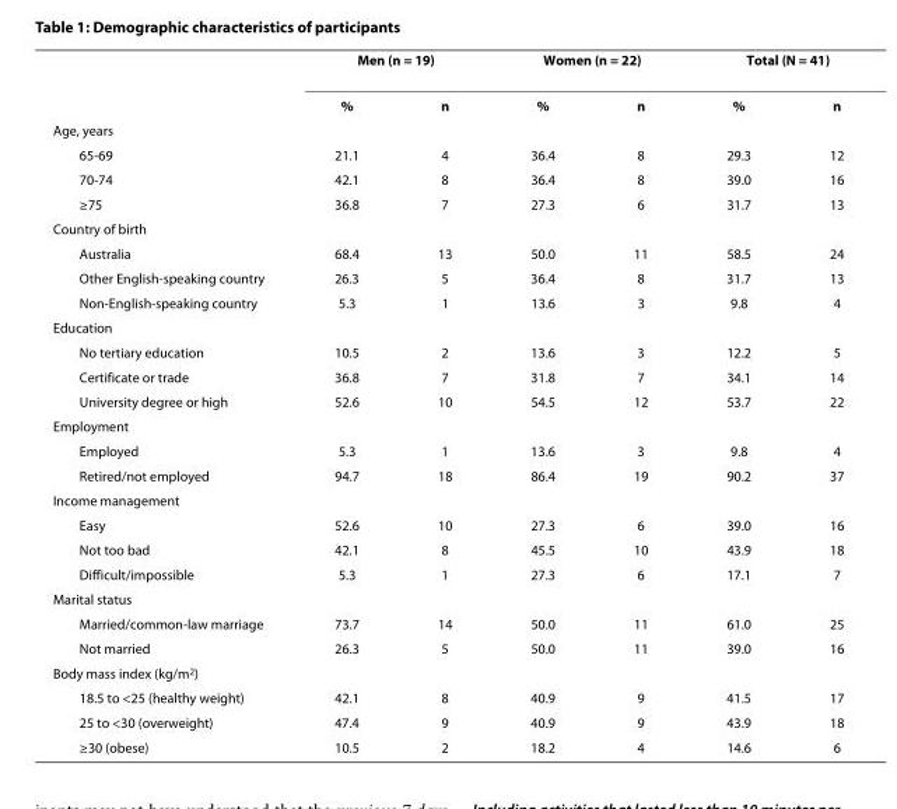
<table><thead><tr><td rowspan="2"></td><td colspan="2">Men (n = 19)</td><td colspan="2">Women (n = 22)</td><td colspan="2">Total (N = 41)</td></tr><tr><td>%</td><td>n</td><td>%</td><td>n</td><td>%</td><td>n</td></tr></thead><tbody><tr><td colspan="7">Age, years</td></tr><tr><td>65-69</td><td>21.1</td><td>4</td><td>36.4</td><td>8</td><td>29.3</td><td>12</td></tr><tr><td>70-74</td><td>42.1</td><td>8</td><td>36.4</td><td>8</td><td>39.0</td><td>16</td></tr><tr><td>≥75</td><td>36.8</td><td>7</td><td>27.3</td><td>6</td><td>31.7</td><td>13</td></tr><tr><td colspan="7">Country of birth</td></tr><tr><td>Australia</td><td>68.4</td><td>13</td><td>50.0</td><td>11</td><td>58.5</td><td>24</td></tr><tr><td>Other English-speaking country</td><td>26.3</td><td>5</td><td>36.4</td><td>8</td><td>31.7</td><td>13</td></tr><tr><td>Non-English-speaking country</td><td>5.3</td><td>1</td><td>13.6</td><td>3</td><td>9.8</td><td>4</td></tr><tr><td colspan="7">Education</td></tr><tr><td>No tertiary education</td><td>10.5</td><td>2</td><td>13.6</td><td>3</td><td>12.2</td><td>5</td></tr><tr><td>Certificate or trade</td><td>36.8</td><td>7</td><td>31.8</td><td>7</td><td>34.1</td><td>14</td></tr><tr><td>University degree or high</td><td>52.6</td><td>10</td><td>54.5</td><td>12</td><td>53.7</td><td>22</td></tr><tr><td colspan="7">Employment</td></tr><tr><td>Employed</td><td>5.3</td><td>1</td><td>13.6</td><td>3</td><td>9.8</td><td>4</td></tr><tr><td>Retired/not employed</td><td>94.7</td><td>18</td><td>86.4</td><td>19</td><td>90.2</td><td>37</td></tr><tr><td colspan="7">Income management</td></tr><tr><td>Easy</td><td>52.6</td><td>10</td><td>27.3</td><td>6</td><td>39.0</td><td>16</td></tr><tr><td>Not too bad</td><td>42.1</td><td>8</td><td>45.5</td><td>10</td><td>43.9</td><td>18</td></tr><tr><td>Difficult/impossible</td><td>5.3</td><td>1</td><td>27.3</td><td>6</td><td>17.1</td><td>7</td></tr><tr><td colspan="7">Marital status</td></tr><tr><td>Married/common-law marriage</td><td>73.7</td><td>14</td><td>50.0</td><td>11</td><td>61.0</td><td>25</td></tr><tr><td>Not married</td><td>26.3</td><td>5</td><td>50.0</td><td>11</td><td>39.0</td><td>16</td></tr><tr><td colspan="7">Body mass index (kg/m<sup>2</sup>)</td></tr><tr><td>18.5 to &lt;25 (healthy weight)</td><td>42.1</td><td>8</td><td>40.9</td><td>9</td><td>41.5</td><td>17</td></tr><tr><td>25 to &lt;30 (overweight)</td><td>47.4</td><td>9</td><td>40.9</td><td>9</td><td>43.9</td><td>18</td></tr><tr><td>≥30 (obese)</td><td>10.5</td><td>2</td><td>18.2</td><td>4</td><td>14.6</td><td>6</td></tr></tbody></table>